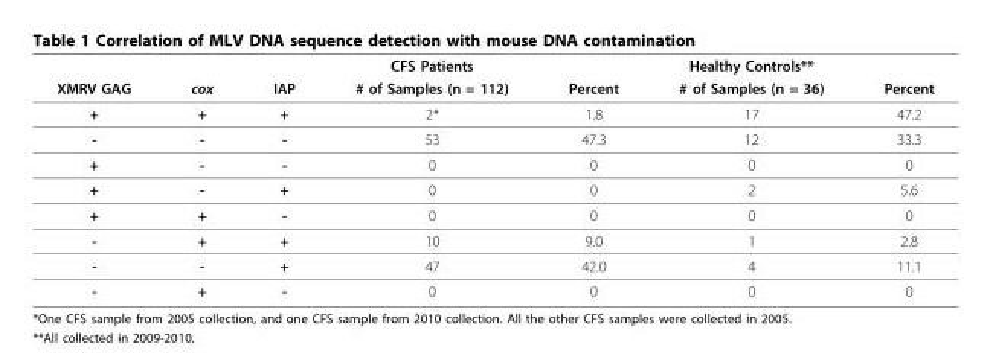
<table><thead><tr><td rowspan="2">XMRV GAG</td><td rowspan="2">cox</td><td rowspan="2">IAP</td><td rowspan="2">CFS Patients # of Samples (n = 112)</td><td rowspan="2">Percent</td><td rowspan="2">Healthy Controls** # of Samples (n = 36)</td><td rowspan="2">Percent</td></tr><tr></tr></thead><tbody><tr><td>+</td><td>+</td><td>+</td><td>2*</td><td>1.8</td><td>17</td><td>47.2</td></tr><tr><td>-</td><td>-</td><td>-</td><td>53</td><td>47.3</td><td>12</td><td>33.3</td></tr><tr><td>+</td><td>-</td><td>-</td><td>0</td><td>0</td><td>0</td><td>0</td></tr><tr><td>+</td><td>-</td><td>+</td><td>0</td><td>0</td><td>2</td><td>5.6</td></tr><tr><td>+</td><td>+</td><td>-</td><td>0</td><td>0</td><td>0</td><td>0</td></tr><tr><td>-</td><td>+</td><td>+</td><td>10</td><td>9.0</td><td>1</td><td>2.8</td></tr><tr><td>-</td><td>-</td><td>+</td><td>47</td><td>42.0</td><td>4</td><td>11.1</td></tr><tr><td>-</td><td>+</td><td>-</td><td>0</td><td>0</td><td>0</td><td>0</td></tr></tbody></table>